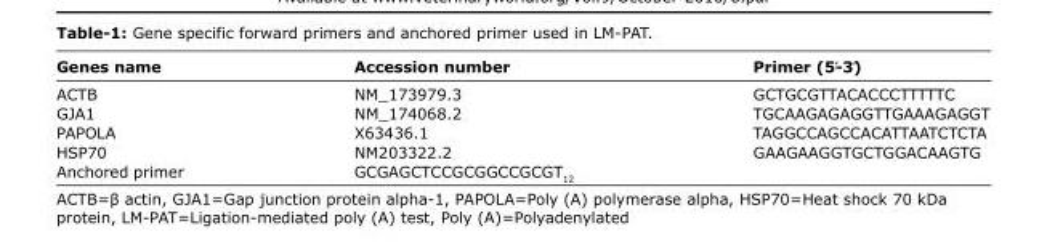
<table><thead><tr><td>Genes name</td><td>Accession number</td><td>Primer (5́-3́)</td></tr></thead><tbody><tr><td>ACTB</td><td>NM_173979.3</td><td>GCTGCGTTACACCCTTTTTC</td></tr><tr><td>GJA1</td><td>NM_174068.2</td><td>TGCAAGAGAGGTTGAAAGAGGT</td></tr><tr><td>PAPOLA</td><td>X63436.1</td><td>TAGGCCAGCCACATTAATCTCTA</td></tr><tr><td>HSP70</td><td>NM203322.2</td><td>GAAGAAGGTGCTGGACAAGTG</td></tr><tr><td>Anchored primer</td><td>GCGAGCTCCGCGGCCGCGT<sub>12</sub></td><td></td></tr></tbody></table>